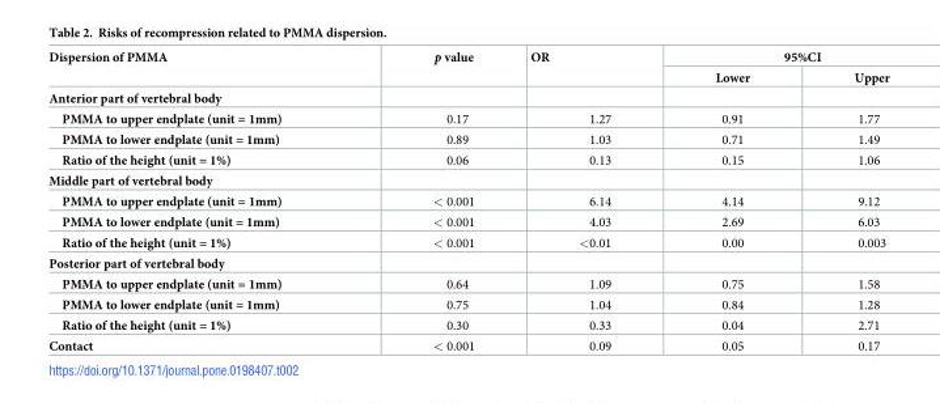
<table><thead><tr><td rowspan="2">Dispersion of PMMA</td><td rowspan="2">p value</td><td rowspan="2">OR</td><td colspan="2">95%CI</td></tr><tr><td>Lower</td><td>Upper</td></tr></thead><tbody><tr><td colspan="5">Anterior part of vertebral body</td></tr><tr><td>PMMA to upper endplate (unit = 1mm)</td><td>0.17</td><td>1.27</td><td>0.91</td><td>1.77</td></tr><tr><td>PMMA to lower endplate (unit = 1mm)</td><td>0.89</td><td>1.03</td><td>0.71</td><td>1.49</td></tr><tr><td>Ratio of the height (unit = 1%)</td><td>0.06</td><td>0.13</td><td>0.15</td><td>1.06</td></tr><tr><td colspan="5">Middle part of vertebral body</td></tr><tr><td>PMMA to upper endplate (unit = 1mm)</td><td>&lt; 0.001</td><td>6.14</td><td>4.14</td><td>9.12</td></tr><tr><td>PMMA to lower endplate (unit = 1mm)</td><td>&lt; 0.001</td><td>4.03</td><td>2.69</td><td>6.03</td></tr><tr><td>Ratio of the height (unit = 1%)</td><td>&lt; 0.001</td><td>&lt;0.01</td><td>0.00</td><td>0.003</td></tr><tr><td colspan="5">Posterior part of vertebral body</td></tr><tr><td>PMMA to upper endplate (unit = 1mm)</td><td>0.64</td><td>1.09</td><td>0.75</td><td>1.58</td></tr><tr><td>PMMA to lower endplate (unit = 1mm)</td><td>0.75</td><td>1.04</td><td>0.84</td><td>1.28</td></tr><tr><td>Ratio of the height (unit = 1%)</td><td>0.30</td><td>0.33</td><td>0.04</td><td>2.71</td></tr><tr><td>Contact</td><td>&lt; 0.001</td><td>0.09</td><td>0.05</td><td>0.17</td></tr></tbody></table>